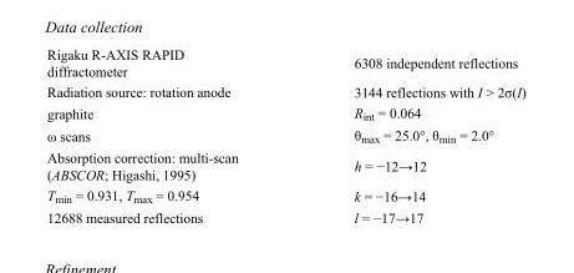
<table><tbody><tr><td>Rigaku R-AXIS RAPID diffractometer</td><td>6308 independent reflections</td></tr><tr><td>Radiation source: rotation anode</td><td>3144 reflections with I &gt; 2σ(I)</td></tr><tr><td>graphite</td><td>R<sub>int</sub> = 0.064</td></tr><tr><td>ω scans</td><td>θ<sub>max</sub> = 25.0°, θ<sub>min</sub> = 2.0°</td></tr><tr><td>Absorption correction: multi-scan (ABSCOR; Higashi, 1995)</td><td>h = −12→12</td></tr><tr><td>T<sub>min</sub> = 0.931, T<sub>max</sub> = 0.954</td><td>k = −16→14</td></tr><tr><td>12688 measured reflections</td><td>l = −17→17</td></tr></tbody></table>